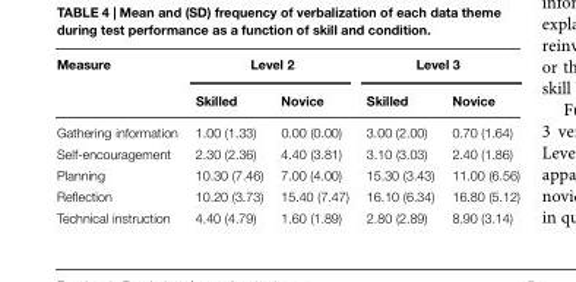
<table><thead><tr><td rowspan="2">Measure</td><td colspan="2">Level 2</td><td colspan="2">Level 3</td></tr><tr><td>Skilled</td><td>Novice</td><td>Skilled</td><td>Novice</td></tr></thead><tbody><tr><td>Gathering information</td><td>1.00 (1.33)</td><td>0.00 (0.00)</td><td>3.00 (2.00)</td><td>0.70 (1.64)</td></tr><tr><td>Self-encouragement</td><td>2.30 (2.36)</td><td>4.40 (3.81)</td><td>3.10 (3.03)</td><td>2.40 (1.86)</td></tr><tr><td>Planning</td><td>10.30 (7.46)</td><td>7.00 (4.00)</td><td>15.30 (3.43)</td><td>11.00 (6.56)</td></tr><tr><td>Reflection</td><td>10.20 (3.73)</td><td>15.40 (7.47)</td><td>16.10 (6.34)</td><td>16.80 (5.12)</td></tr><tr><td>Technical instruction</td><td>4.40 (4.79)</td><td>1.60 (1.89)</td><td>2.80 (2.89)</td><td>8.90 (3.14)</td></tr></tbody></table>